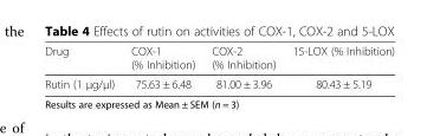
<table><thead><tr><td>Drug</td><td>COX-1 (% Inhibition)</td><td>COX-2 (% Inhibition)</td><td>15-LOX (% Inhibition)</td></tr></thead><tbody><tr><td>Rutin (1 μg/μl)</td><td>75.63 ± 6.48</td><td>81.00 ± 3.96</td><td>80.43 ± 5.19</td></tr></tbody></table>